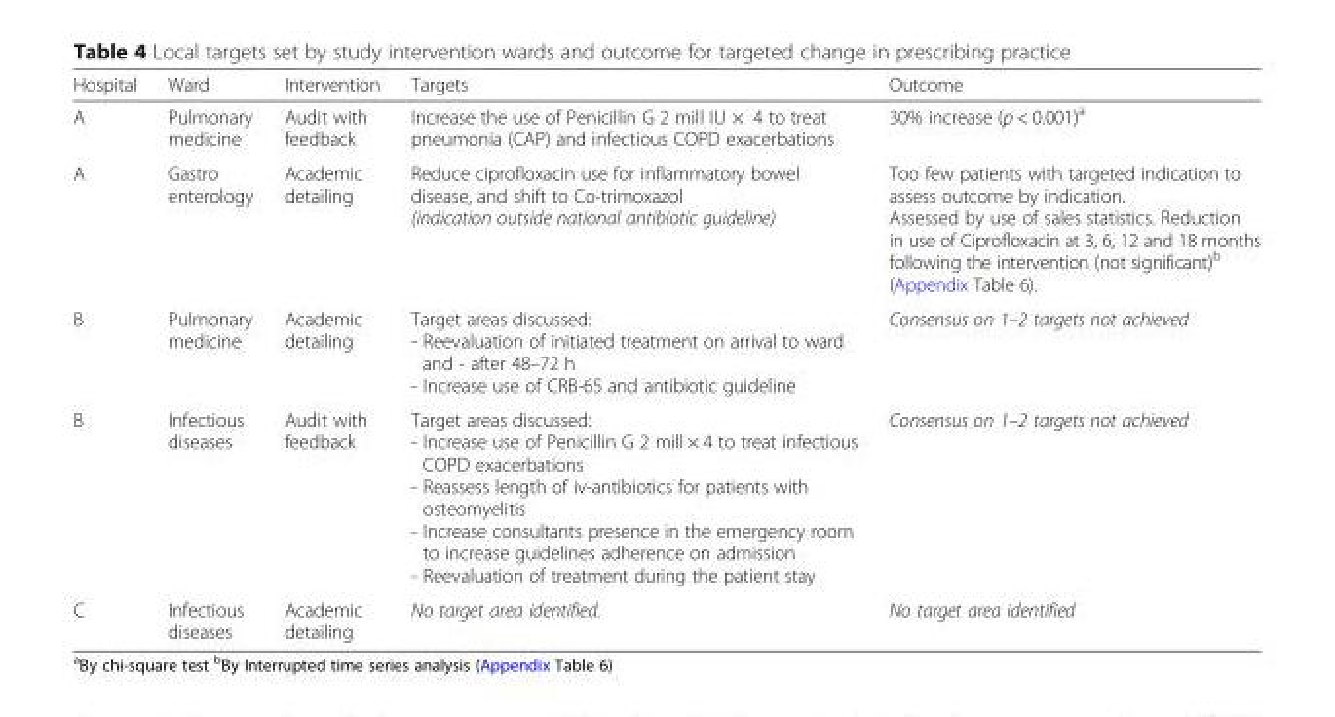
<table><thead><tr><td>Hospital</td><td>Ward</td><td>Intervention</td><td>Targets</td><td>Outcome</td></tr></thead><tbody><tr><td>A</td><td>Pulmonary medicine</td><td>Audit with feedback</td><td>Increase the use of Penicillin G 2 mill IU × 4 to treat pneumonia (CAP) and infectious COPD exacerbations</td><td>30% increase (p &lt; 0.001)<sup>a</sup></td></tr><tr><td>A</td><td>Gastro enterology</td><td>Academic detailing</td><td>Reduce ciprofloxacin use for inflammatory bowel disease, and shift to Co-trimoxazol (indication outside national antibiotic guideline)</td><td>Too few patients with targeted indication to assess outcome by indication. Assessed by use of sales statistics. Reduction in use of Ciprofloxacin at 3, 6, 12 and 18 months following the intervention (not significant)<sup>b</sup> (Appendix Table 6).</td></tr><tr><td>B</td><td>Pulmonary medicine</td><td>Academic detailing</td><td>Target areas discussed: - Reevaluation of initiated treatment on arrival to ward and - after 48–72 h - Increase use of CRB-65 and antibiotic guideline</td><td>Consensus on 1–2 targets not achieved</td></tr><tr><td>B</td><td>Infectious diseases</td><td>Audit with feedback</td><td>Target areas discussed: - Increase use of Penicillin G 2 mill × 4 to treat infectious COPD exacerbations - Reassess length of iv-antibiotics for patients with osteomyelitis - Increase consultants presence in the emergency room to increase guidelines adherence on admission - Reevaluation of treatment during the patient stay</td><td>Consensus on 1–2 targets not achieved</td></tr><tr><td>C</td><td>Infectious diseases</td><td>Academic detailing</td><td>No target area identified.</td><td>No target area identified</td></tr></tbody></table>